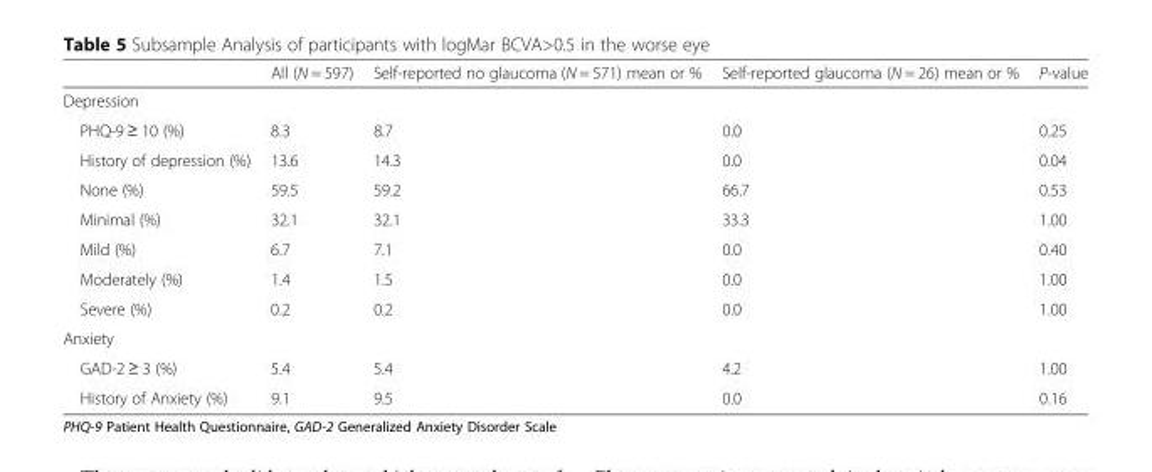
<table><thead><tr><td></td><td>All (N = 597)</td><td>Self-reported no glaucoma (N = 571) mean or %</td><td>Self-reported glaucoma (N = 26) mean or %</td><td>P-value</td></tr></thead><tbody><tr><td colspan="5">Depression</td></tr><tr><td>PHQ-9 ≥ 10 (%)</td><td>8.3</td><td>8.7</td><td>0.0</td><td>0.25</td></tr><tr><td>History of depression (%)</td><td>13.6</td><td>14.3</td><td>0.0</td><td>0.04</td></tr><tr><td>None (%)</td><td>59.5</td><td>59.2</td><td>66.7</td><td>0.53</td></tr><tr><td>Minimal (%)</td><td>32.1</td><td>32.1</td><td>33.3</td><td>1.00</td></tr><tr><td>Mild (%)</td><td>6.7</td><td>7.1</td><td>0.0</td><td>0.40</td></tr><tr><td>Moderately (%)</td><td>1.4</td><td>1.5</td><td>0.0</td><td>1.00</td></tr><tr><td>Severe (%)</td><td>0.2</td><td>0.2</td><td>0.0</td><td>1.00</td></tr><tr><td colspan="5">Anxiety</td></tr><tr><td>GAD-2 ≥ 3 (%)</td><td>5.4</td><td>5.4</td><td>4.2</td><td>1.00</td></tr><tr><td>History of Anxiety (%)</td><td>9.1</td><td>9.5</td><td>0.0</td><td>0.16</td></tr></tbody></table>